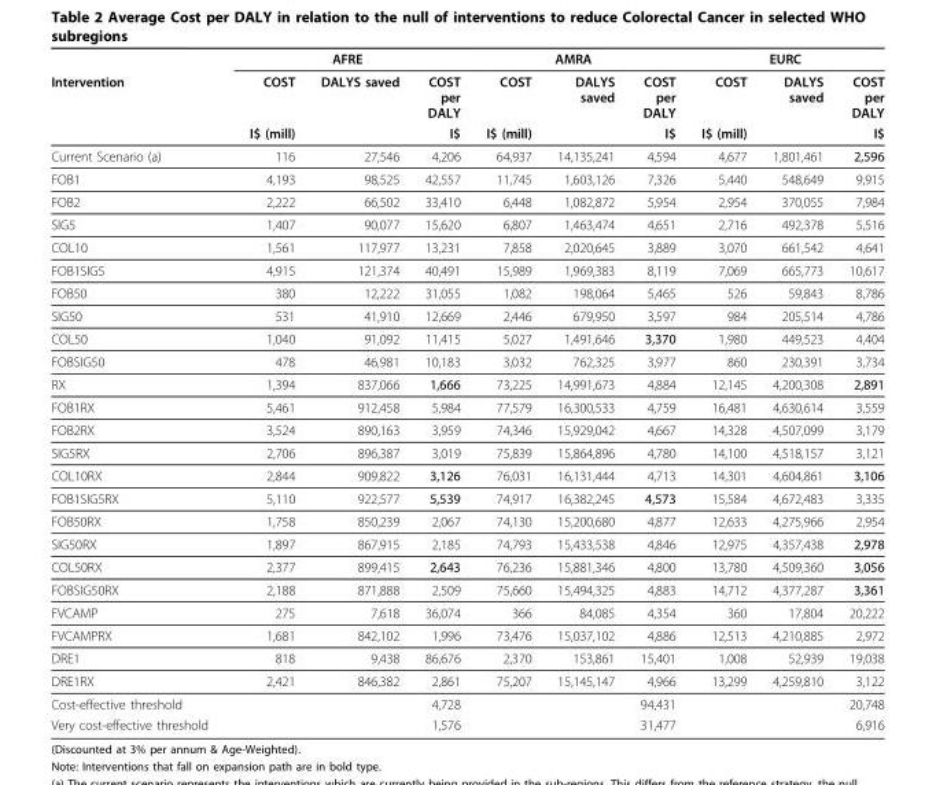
<table><thead><tr><td rowspan="3">Intervention</td><td colspan="3">AFRE</td><td colspan="3">AMRA</td><td colspan="3">EURC</td></tr><tr><td rowspan="2">COST I$ (mill)</td><td rowspan="2">DALYS saved</td><td rowspan="2">COST per DALY I$</td><td rowspan="2">COST I$ (mill)</td><td rowspan="2">DALYS saved</td><td rowspan="2">COST per DALY I$</td><td rowspan="2">COST I$ (mill)</td><td rowspan="2">DALYS saved</td><td rowspan="2">COST per DALY I$</td></tr><tr></tr></thead><tbody><tr><td>Current Scenario (a)</td><td>116</td><td>27,546</td><td>4,206</td><td>64,937</td><td>14,135,241</td><td>4,594</td><td>4,677</td><td>1,801,461</td><td>2,596</td></tr><tr><td>FOB1</td><td>4,193</td><td>98,525</td><td>42,557</td><td>11,745</td><td>1,603,126</td><td>7,326</td><td>5,440</td><td>548,649</td><td>9,915</td></tr><tr><td>FOB2</td><td>2,222</td><td>66,502</td><td>33,410</td><td>6,448</td><td>1,082,872</td><td>5,954</td><td>2,954</td><td>370,055</td><td>7,984</td></tr><tr><td>SIG5</td><td>1,407</td><td>90,077</td><td>15,620</td><td>6,807</td><td>1,463,474</td><td>4,651</td><td>2,716</td><td>492,378</td><td>5,516</td></tr><tr><td>COL10</td><td>1,561</td><td>117,977</td><td>13,231</td><td>7,858</td><td>2,020,645</td><td>3,889</td><td>3,070</td><td>661,542</td><td>4,641</td></tr><tr><td>FOB1SIG5</td><td>4,915</td><td>121,374</td><td>40,491</td><td>15,989</td><td>1,969,383</td><td>8,119</td><td>7,069</td><td>665,773</td><td>10,617</td></tr><tr><td>FOB50</td><td>380</td><td>12,222</td><td>31,055</td><td>1,082</td><td>198,064</td><td>5,465</td><td>526</td><td>59,843</td><td>8,786</td></tr><tr><td>SIG50</td><td>531</td><td>41,910</td><td>12,669</td><td>2,446</td><td>679,950</td><td>3,597</td><td>984</td><td>205,514</td><td>4,786</td></tr><tr><td>COL50</td><td>1,040</td><td>91,092</td><td>11,415</td><td>5,027</td><td>1,491,646</td><td>3,370</td><td>1,980</td><td>449,523</td><td>4,404</td></tr><tr><td>FOBSIG50</td><td>478</td><td>46,981</td><td>10,183</td><td>3,032</td><td>762,325</td><td>3,977</td><td>860</td><td>230,391</td><td>3,734</td></tr><tr><td>RX</td><td>1,394</td><td>837,066</td><td>1,666</td><td>73,225</td><td>14,991,673</td><td>4,884</td><td>12,145</td><td>4,200,308</td><td>2,891</td></tr><tr><td>FOB1RX</td><td>5,461</td><td>912,458</td><td>5,984</td><td>77,579</td><td>16,300,533</td><td>4,759</td><td>16,481</td><td>4,630,614</td><td>3,559</td></tr><tr><td>FOB2RX</td><td>3,524</td><td>890,163</td><td>3,959</td><td>74,346</td><td>15,929,042</td><td>4,667</td><td>14,328</td><td>4,507,099</td><td>3,179</td></tr><tr><td>SIG5RX</td><td>2,706</td><td>896,387</td><td>3,019</td><td>75,839</td><td>15,864,896</td><td>4,780</td><td>14,100</td><td>4,518,157</td><td>3,121</td></tr><tr><td>COL10RX</td><td>2,844</td><td>909,822</td><td>3,126</td><td>76,031</td><td>16,131,444</td><td>4,713</td><td>14,301</td><td>4,604,861</td><td>3,106</td></tr><tr><td>FOB1SIG5RX</td><td>5,110</td><td>922,577</td><td>5,539</td><td>74,917</td><td>16,382,245</td><td>4,573</td><td>15,584</td><td>4,672,483</td><td>3,335</td></tr><tr><td>FOB50RX</td><td>1,758</td><td>850,239</td><td>2,067</td><td>74,130</td><td>15,200,680</td><td>4,877</td><td>12,633</td><td>4,275,966</td><td>2,954</td></tr><tr><td>SIG50RX</td><td>1,897</td><td>867,915</td><td>2,185</td><td>74,793</td><td>15,433,538</td><td>4,846</td><td>12,975</td><td>4,357,438</td><td>2,978</td></tr><tr><td>COL50RX</td><td>2,377</td><td>899,415</td><td>2,643</td><td>76,236</td><td>15,881,346</td><td>4,800</td><td>13,780</td><td>4,509,360</td><td>3,056</td></tr><tr><td>FOBSIG50RX</td><td>2,188</td><td>871,888</td><td>2,509</td><td>75,660</td><td>15,494,325</td><td>4,883</td><td>14,712</td><td>4,377,287</td><td>3,361</td></tr><tr><td>FVCAMP</td><td>275</td><td>7,618</td><td>36,074</td><td>366</td><td>84,085</td><td>4,354</td><td>360</td><td>17,804</td><td>20,222</td></tr><tr><td>FVCAMPRX</td><td>1,681</td><td>842,102</td><td>1,996</td><td>73,476</td><td>15,037,102</td><td>4,886</td><td>12,513</td><td>4,210,885</td><td>2,972</td></tr><tr><td>DRE1</td><td>818</td><td>9,438</td><td>86,676</td><td>2,370</td><td>153,861</td><td>15,401</td><td>1,008</td><td>52,939</td><td>19,038</td></tr><tr><td>DRE1RX</td><td>2,421</td><td>846,382</td><td>2,861</td><td>75,207</td><td>15,145,147</td><td>4,966</td><td>13,299</td><td>4,259,810</td><td>3,122</td></tr><tr><td>Cost-effective threshold</td><td></td><td></td><td>4,728</td><td></td><td></td><td>94,431</td><td></td><td></td><td>20,748</td></tr><tr><td>Very cost-effective threshold</td><td></td><td></td><td>1,576</td><td></td><td></td><td>31,477</td><td></td><td></td><td>6,916</td></tr></tbody></table>